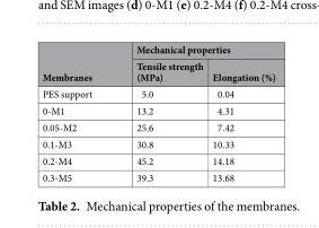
<table><thead><tr><td rowspan="2">Membranes</td><td colspan="2">Mechanical properties</td></tr><tr><td>Tensile strength (MPa)</td><td>Elongation (%)</td></tr></thead><tbody><tr><td>PES support</td><td>5.0</td><td>0.04</td></tr><tr><td>0-M1</td><td>13.2</td><td>4.31</td></tr><tr><td>0.05-M2</td><td>25.6</td><td>7.42</td></tr><tr><td>0.1-M3</td><td>30.8</td><td>10.33</td></tr><tr><td>0.2-M4</td><td>45.2</td><td>14.18</td></tr><tr><td>0.3-M5</td><td>39.3</td><td>13.68</td></tr></tbody></table>